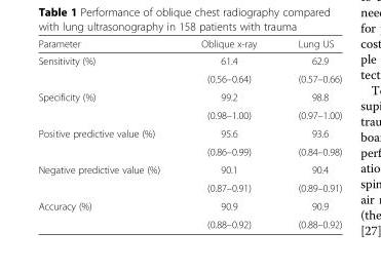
<table><thead><tr><td>Parameter</td><td>Oblique x-ray</td><td>Lung US</td></tr></thead><tbody><tr><td rowspan="2">Sensitivity (%)</td><td>61.4</td><td>62.9</td></tr><tr><td>(0.56–0.64)</td><td>(0.57–0.66)</td></tr><tr><td rowspan="2">Specificity (%)</td><td>99.2</td><td>98.8</td></tr><tr><td>(0.98–1.00)</td><td>(0.97–1.00)</td></tr><tr><td rowspan="2">Positive predictive value (%)</td><td>95.6</td><td>93.6</td></tr><tr><td>(0.86–0.99)</td><td>(0.84–0.98)</td></tr><tr><td rowspan="2">Negative predictive value (%)</td><td>90.1</td><td>90.4</td></tr><tr><td>(0.87–0.91)</td><td>(0.89–0.91)</td></tr><tr><td rowspan="2">Accuracy (%)</td><td>90.9</td><td>90.9</td></tr><tr><td>(0.88–0.92)</td><td>(0.88–0.92)</td></tr></tbody></table>